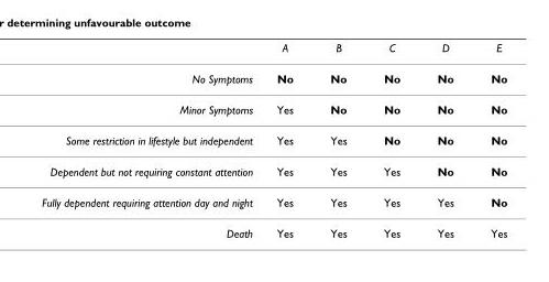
<table><thead><tr><td></td><td>A</td><td>B</td><td>C</td><td>D</td><td>E</td></tr></thead><tbody><tr><td>No Symptoms</td><td>No</td><td>No</td><td>No</td><td>No</td><td>No</td></tr><tr><td>Minor Symptoms</td><td>Yes</td><td>No</td><td>No</td><td>No</td><td>No</td></tr><tr><td>Some restriction in lifestyle but independent</td><td>Yes</td><td>Yes</td><td>No</td><td>No</td><td>No</td></tr><tr><td>Dependent but not requiring constant attention</td><td>Yes</td><td>Yes</td><td>Yes</td><td>No</td><td>No</td></tr><tr><td>Fully dependent requiring attention day and night</td><td>Yes</td><td>Yes</td><td>Yes</td><td>Yes</td><td>No</td></tr><tr><td>Death</td><td>Yes</td><td>Yes</td><td>Yes</td><td>Yes</td><td>Yes</td></tr></tbody></table>